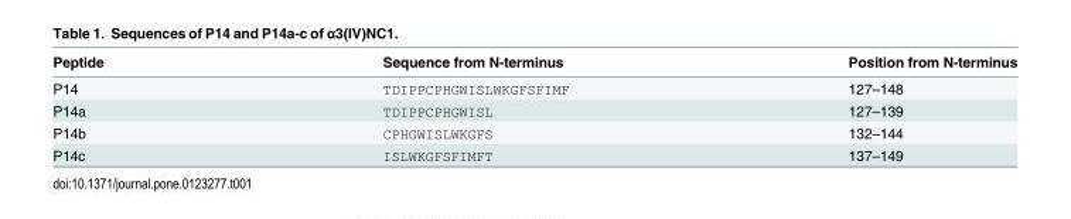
<table><thead><tr><td>Peptide</td><td>Sequence from N-terminus</td><td>Position from N-terminus</td></tr></thead><tbody><tr><td>P14</td><td>TDIPPCPHGWISLWKGFSFIMF</td><td>127–148</td></tr><tr><td>P14a</td><td>TDIPPCPHGWISL</td><td>127–139</td></tr><tr><td>P14b</td><td>CPHGWISLWKGFS</td><td>132–144</td></tr><tr><td>P14c</td><td>ISLWKGFSFIMFT</td><td>137–149</td></tr></tbody></table>